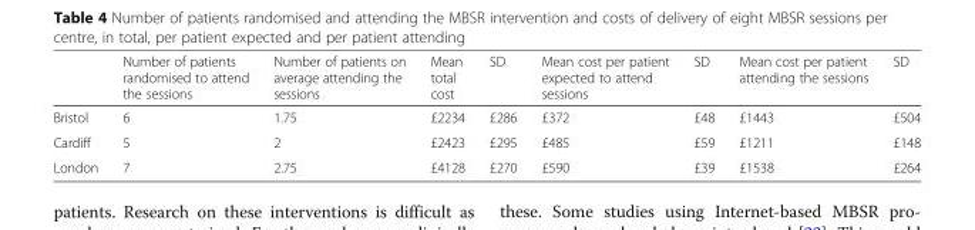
<table><thead><tr><td></td><td>Number of patients randomised to attend the sessions</td><td>Number of patients on average attending the sessions</td><td>Mean total cost</td><td>SD</td><td>Mean cost per patient expected to attend sessions</td><td>SD</td><td>Mean cost per patient attending the sessions</td><td>SD</td></tr></thead><tbody><tr><td>Bristol</td><td>6</td><td>1.75</td><td>£2234</td><td>£286</td><td>£372</td><td>£48</td><td>£1443</td><td>£504</td></tr><tr><td>Cardiff</td><td>5</td><td>2</td><td>£2423</td><td>£295</td><td>£485</td><td>£59</td><td>£1211</td><td>£148</td></tr><tr><td>London</td><td>7</td><td>2.75</td><td>£4128</td><td>£270</td><td>£590</td><td>£39</td><td>£1538</td><td>£264</td></tr></tbody></table>